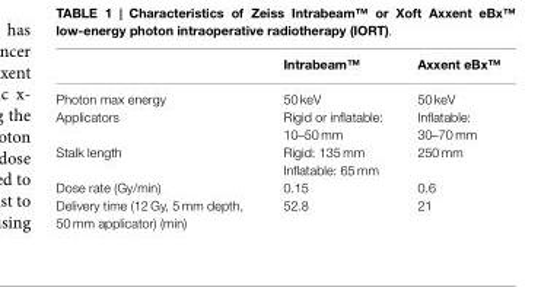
<table><thead><tr><td></td><td>Intrabeam™</td><td>Axxent eBx™</td></tr></thead><tbody><tr><td>Photon max energy</td><td>50 keV</td><td>50 keV</td></tr><tr><td>Applicators</td><td>Rigid or inflatable: 10–50 mm</td><td>Inflatable: 30–70 mm</td></tr><tr><td rowspan="2">Stalk length</td><td>Rigid: 135 mm</td><td>250 mm</td></tr><tr><td>Inflatable: 65 mm</td><td></td></tr><tr><td>Dose rate (Gy/min)</td><td>0.15</td><td>0.6</td></tr><tr><td>Delivery time (12 Gy, 5 mm depth, 50 mm applicator) (min)</td><td>52.8</td><td>21</td></tr></tbody></table>